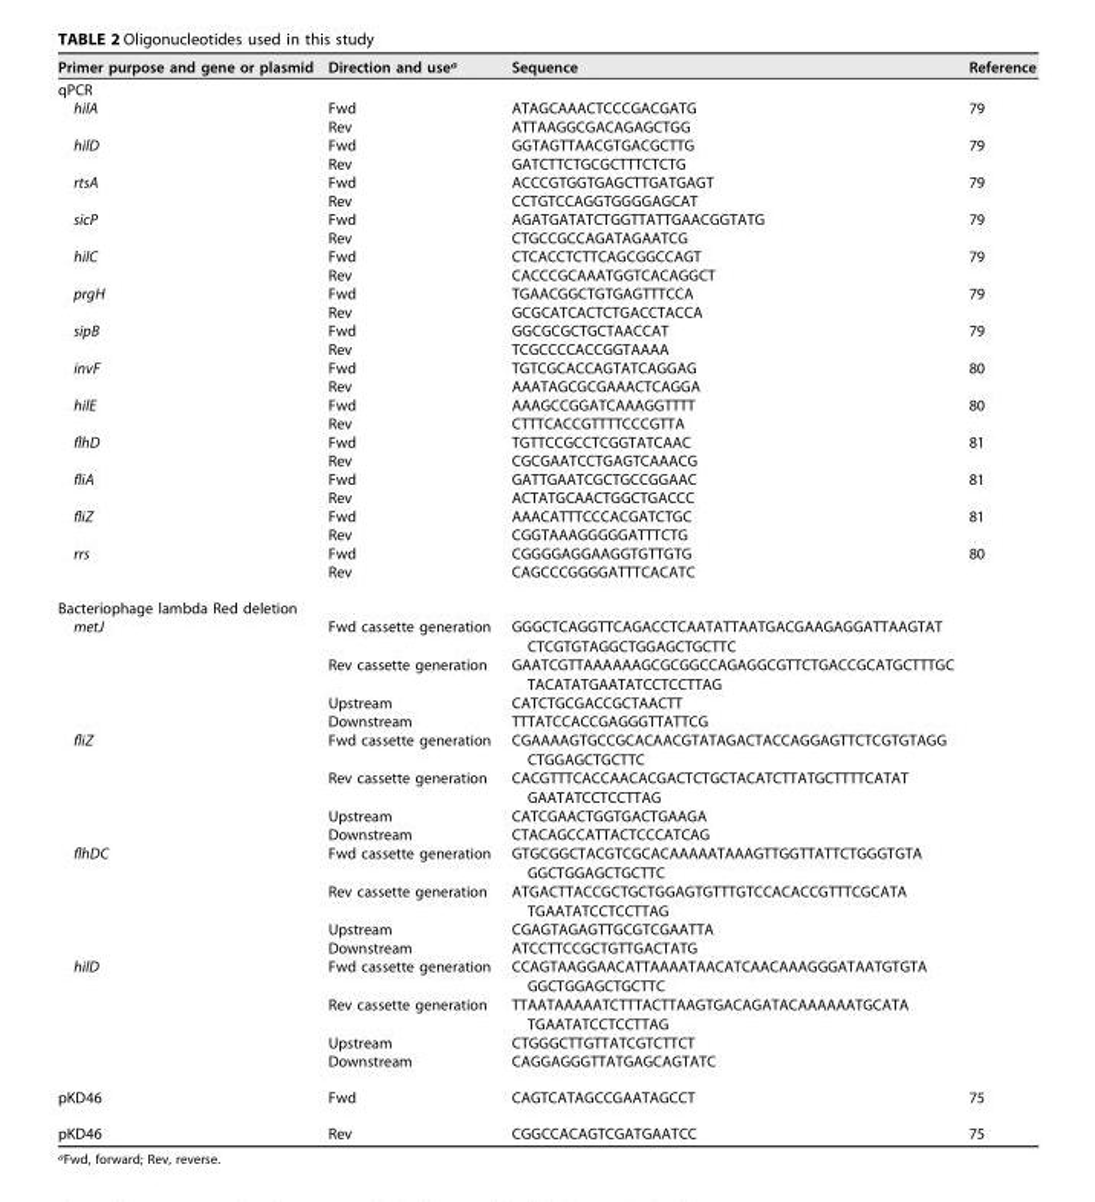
<table><thead><tr><td>Primer purpose and gene or plasmid</td><td>Direction and use<sup>a</sup></td><td>Sequence</td><td>Reference</td></tr></thead><tbody><tr><td colspan="4">qPCR</td></tr><tr><td rowspan="2">hilA</td><td>Fwd</td><td>ATAGCAAACTCCCGACGATG</td><td>79</td></tr><tr><td>Rev</td><td>ATTAAGGCGACAGAGCTGG</td><td></td></tr><tr><td rowspan="2">hilD</td><td>Fwd</td><td>GGTAGTTAACGTGACGCTTG</td><td>79</td></tr><tr><td>Rev</td><td>GATCTTCTGCGCTTTCTCTG</td><td></td></tr><tr><td rowspan="2">rtsA</td><td>Fwd</td><td>ACCCGTGGTGAGCTTGATGAGT</td><td>79</td></tr><tr><td>Rev</td><td>CCTGTCCAGGTGGGGAGCAT</td><td></td></tr><tr><td rowspan="2">sicP</td><td>Fwd</td><td>AGATGATATCTGGTTATTGAACGGTATG</td><td>79</td></tr><tr><td>Rev</td><td>CTGCCGCCAGATAGAATCG</td><td></td></tr><tr><td rowspan="2">hilC</td><td>Fwd</td><td>CTCACCTCTTCAGCGGCCAGT</td><td>79</td></tr><tr><td>Rev</td><td>CACCCGCAAATGGTCACAGGCT</td><td></td></tr><tr><td rowspan="2">prgH</td><td>Fwd</td><td>TGAACGGCTGTGAGTTTCCA</td><td>79</td></tr><tr><td>Rev</td><td>GCGCATCACTCTGACCTACCA</td><td></td></tr><tr><td rowspan="2">sipB</td><td>Fwd</td><td>GGCGCGCTGCTAACCAT</td><td>79</td></tr><tr><td>Rev</td><td>TCGCCCCACCGGTAAAA</td><td></td></tr><tr><td rowspan="2">invF</td><td>Fwd</td><td>TGTCGCACCAGTATCAGGAG</td><td>80</td></tr><tr><td>Rev</td><td>AAATAGCGCGAAACTCAGGA</td><td></td></tr><tr><td rowspan="2">hilE</td><td>Fwd</td><td>AAAGCCGGATCAAAGGTTTT</td><td>80</td></tr><tr><td>Rev</td><td>CTTTCACCGTTTTCCCGTTA</td><td></td></tr><tr><td rowspan="2">flhD</td><td>Fwd</td><td>TGTTCCGCCTCGGTATCAAC</td><td>81</td></tr><tr><td>Rev</td><td>CGCGAATCCTGAGTCAAACG</td><td></td></tr><tr><td rowspan="2">fliA</td><td>Fwd</td><td>GATTGAATCGCTGCCGGAAC</td><td>81</td></tr><tr><td>Rev</td><td>ACTATGCAACTGGCTGACCC</td><td></td></tr><tr><td rowspan="2">fliZ</td><td>Fwd</td><td>AAACATTTCCCACGATCTGC</td><td>81</td></tr><tr><td>Rev</td><td>CGGTAAAGGGGGATTTCTG</td><td></td></tr><tr><td rowspan="2">rrs</td><td>Fwd</td><td>CGGGGAGGAAGGTGTTGTG</td><td>80</td></tr><tr><td>Rev</td><td>CAGCCCGGGGATTTCACATC</td><td></td></tr><tr><td colspan="4">Bacteriophage lambda Red deletion</td></tr><tr><td rowspan="4">metJ</td><td>Fwd cassette generation</td><td>GGGCTCAGGTTCAGACCTCAATATTAATGACGAAGAGGATTAAGTAT CTCGTGTAGGCTGGAGCTGCTTC</td><td></td></tr><tr><td>Rev cassette generation</td><td>GAATCGTTAAAAAAGCGCGGCCAGAGGCGTTCTGACCGCATGCTTTGC TACATATGAATATCCTCCTTAG</td><td></td></tr><tr><td>Upstream</td><td>CATCTGCGACCGCTAACTT</td><td></td></tr><tr><td>Downstream</td><td>TTTATCCACCGAGGGTTATTCG</td><td></td></tr><tr><td rowspan="4">fliZ</td><td>Fwd cassette generation</td><td>CGAAAAGTGCCGCACAACGTATAGACTACCAGGAGTTCTCGTGTAGG CTGGAGCTGCTTC</td><td></td></tr><tr><td>Rev cassette generation</td><td>CACGTTTCACCAACACGACTCTGCTACATCTTATGCTTTTCATAT GAATATCCTCCTTAG</td><td></td></tr><tr><td>Upstream</td><td>CATCGAACTGGTGACTGAAGA</td><td></td></tr><tr><td>Downstream</td><td>CTACAGCCATTACTCCCATCAG</td><td></td></tr><tr><td rowspan="4">flhDC</td><td>Fwd cassette generation</td><td>GTGCGGCTACGTCGCACAAAAATAAAGTTGGTTATTCTGGGTGTA GGCTGGAGCTGCTTC</td><td></td></tr><tr><td>Rev cassette generation</td><td>ATGACTTACCGCTGCTGGAGTGTTTGTCCACACCGTTTCGCATA TGAATATCCTCCTTAG</td><td></td></tr><tr><td>Upstream</td><td>CGAGTAGAGTTGCGTCGAATTA</td><td></td></tr><tr><td>Downstream</td><td>ATCCTTCCGCTGTTGACTATG</td><td></td></tr><tr><td rowspan="4">hilD</td><td>Fwd cassette generation</td><td>CCAGTAAGGAACATTAAAATAACATCAACAAAGGGATAATGTGTA GGCTGGAGCTGCTTC</td><td></td></tr><tr><td>Rev cassette generation</td><td>TTAATAAAAATCTTTACTTAAGTGACAGATACAAAAAATGCATA TGAATATCCTCCTTAG</td><td></td></tr><tr><td>Upstream</td><td>CTGGGCTTGTTATCGTCTTCT</td><td></td></tr><tr><td>Downstream</td><td>CAGGAGGGTTATGAGCAGTATC</td><td></td></tr><tr><td>pKD46</td><td>Fwd</td><td>CAGTCATAGCCGAATAGCCT</td><td>75</td></tr><tr><td>pKD46</td><td>Rev</td><td>CGGCCACAGTCGATGAATCC</td><td>75</td></tr></tbody></table>